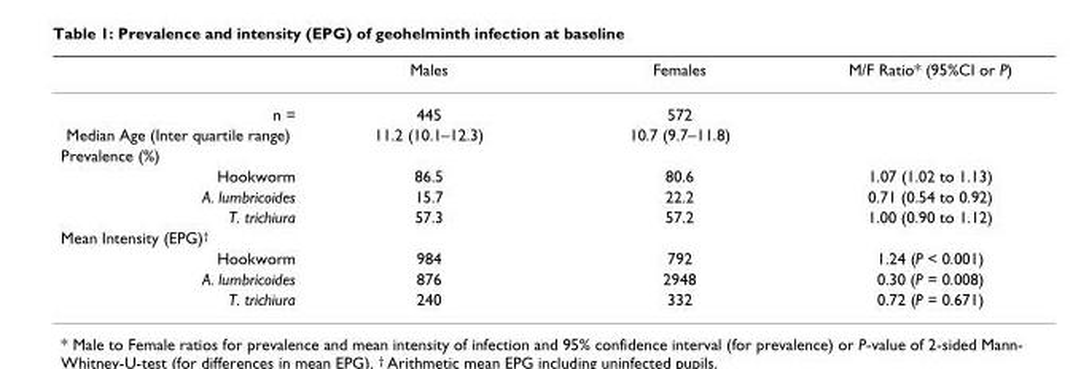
<table><thead><tr><td></td><td>Males</td><td>Females</td><td>M/F Ratio* (95%CI or P)</td></tr></thead><tbody><tr><td>n =</td><td>445</td><td>572</td><td></td></tr><tr><td>Median Age (Inter quartile range)</td><td>11.2 (10.1–12.3)</td><td>10.7 (9.7–11.8)</td><td></td></tr><tr><td colspan="4">Prevalence (%)</td></tr><tr><td>Hookworm</td><td>86.5</td><td>80.6</td><td>1.07 (1.02 to 1.13)</td></tr><tr><td>A. lumbricoides</td><td>15.7</td><td>22.2</td><td>0.71 (0.54 to 0.92)</td></tr><tr><td>T. trichiura</td><td>57.3</td><td>57.2</td><td>1.00 (0.90 to 1.12)</td></tr><tr><td colspan="4">Mean Intensity (EPG)†</td></tr><tr><td>Hookworm</td><td>984</td><td>792</td><td>1.24 (P &lt; 0.001)</td></tr><tr><td>A. lumbricoides</td><td>876</td><td>2948</td><td>0.30 (P = 0.008)</td></tr><tr><td>T. trichiura</td><td>240</td><td>332</td><td>0.72 (P = 0.671)</td></tr></tbody></table>